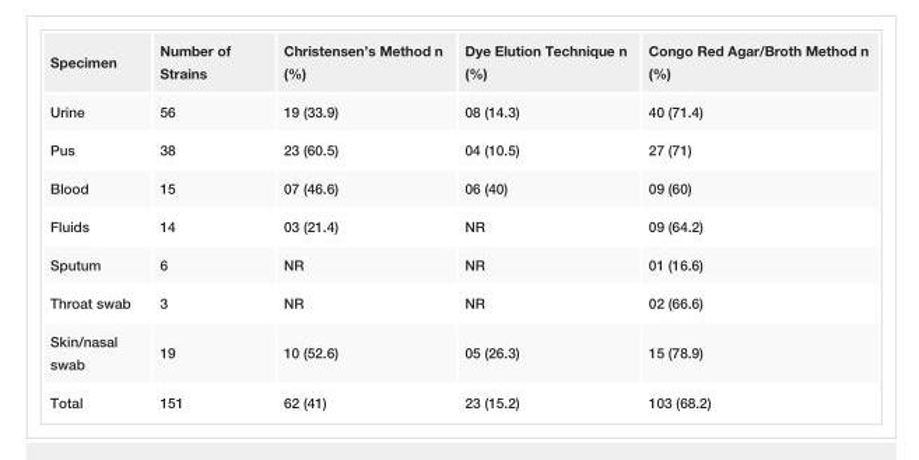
<table><tbody><tr><td>Specimen</td><td>Number of Strains</td><td>Christensen’s Method n (%)</td><td>Dye Elution Technique n (%)</td><td>Congo Red Agar/Broth Method n (%)</td></tr><tr><td>Urine</td><td>56</td><td>19 (33.9)</td><td>08 (14.3)</td><td>40 (71.4)</td></tr><tr><td>Pus</td><td>38</td><td>23 (60.5)</td><td>04 (10.5)</td><td>27 (71)</td></tr><tr><td>Blood</td><td>15</td><td>07 (46.6)</td><td>06 (40)</td><td>09 (60)</td></tr><tr><td>Fluids</td><td>14</td><td>03 (21.4)</td><td>NR</td><td>09 (64.2)</td></tr><tr><td>Sputum</td><td>6</td><td>NR</td><td>NR</td><td>01 (16.6)</td></tr><tr><td>Throat swab</td><td>3</td><td>NR</td><td>NR</td><td>02 (66.6)</td></tr><tr><td>Skin/nasal swab</td><td>19</td><td>10 (52.6)</td><td>05 (26.3)</td><td>15 (78.9)</td></tr><tr><td>Total</td><td>151</td><td>62 (41)</td><td>23 (15.2)</td><td>103 (68.2)</td></tr></tbody></table>